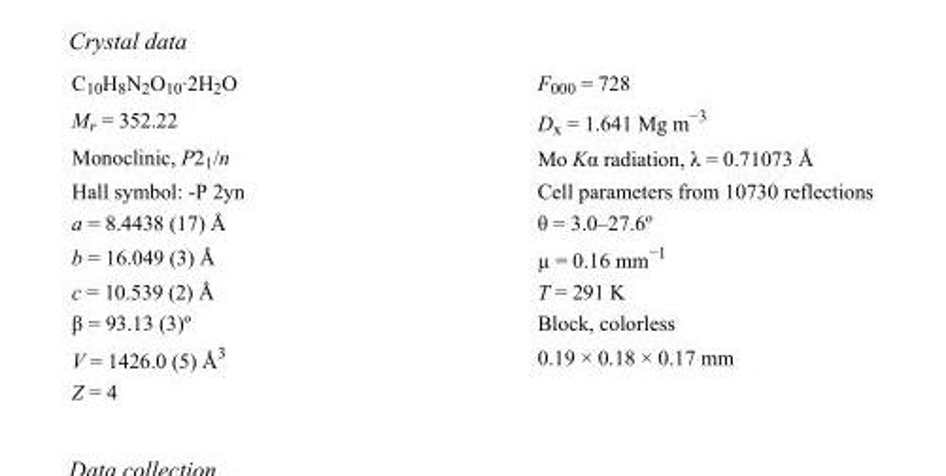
<table><tbody><tr><td>C<sub>10</sub>H<sub>8</sub>N<sub>2</sub>O<sub>10</sub>·2H<sub>2</sub>O</td><td>F000 = 728</td></tr><tr><td>M<sub>r</sub> = 352.22</td><td>D<sub>x</sub> = 1.641 Mg m<sup>−3</sup></td></tr><tr><td>Monoclinic, P2<sub>1</sub>/n</td><td>Mo Kα radiation, λ = 0.71073 Å</td></tr><tr><td>Hall symbol: -P 2yn</td><td>Cell parameters from 10730 reflections</td></tr><tr><td>a = 8.4438 (17) Å</td><td>θ = 3.0–27.6º</td></tr><tr><td>b = 16.049 (3) Å</td><td>µ = 0.16 mm<sup>−1</sup></td></tr><tr><td>c = 10.539 (2) Å</td><td>T = 291 K</td></tr><tr><td>β = 93.13 (3)º</td><td>Block, colorless</td></tr><tr><td>V = 1426.0 (5) Å<sup>3</sup></td><td>0.19 × 0.18 × 0.17 mm</td></tr><tr><td>Z = 4</td><td></td></tr></tbody></table>